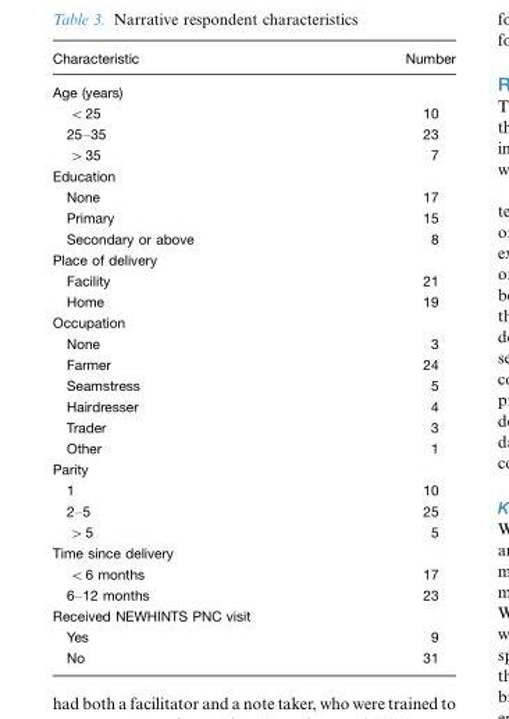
<table><thead><tr><td>Characteristic</td><td>Number</td></tr></thead><tbody><tr><td colspan="2">Age (years)</td></tr><tr><td>&lt;25</td><td>10</td></tr><tr><td>25–35</td><td>23</td></tr><tr><td>&gt;35</td><td>7</td></tr><tr><td colspan="2">Education</td></tr><tr><td>None</td><td>17</td></tr><tr><td>Primary</td><td>15</td></tr><tr><td>Secondary or above</td><td>8</td></tr><tr><td colspan="2">Place of delivery</td></tr><tr><td>Facility</td><td>21</td></tr><tr><td>Home</td><td>19</td></tr><tr><td colspan="2">Occupation</td></tr><tr><td>None</td><td>3</td></tr><tr><td>Farmer</td><td>24</td></tr><tr><td>Seamstress</td><td>5</td></tr><tr><td>Hairdresser</td><td>4</td></tr><tr><td>Trader</td><td>3</td></tr><tr><td>Other</td><td>1</td></tr><tr><td colspan="2">Parity</td></tr><tr><td>1</td><td>10</td></tr><tr><td>2–5</td><td>25</td></tr><tr><td>&gt;5</td><td>5</td></tr><tr><td colspan="2">Time since delivery</td></tr><tr><td>&lt;6 months</td><td>17</td></tr><tr><td>6–12 months</td><td>23</td></tr><tr><td colspan="2">Received NEWHINTS PNC visit</td></tr><tr><td>Yes</td><td>9</td></tr><tr><td>No</td><td>31</td></tr></tbody></table>